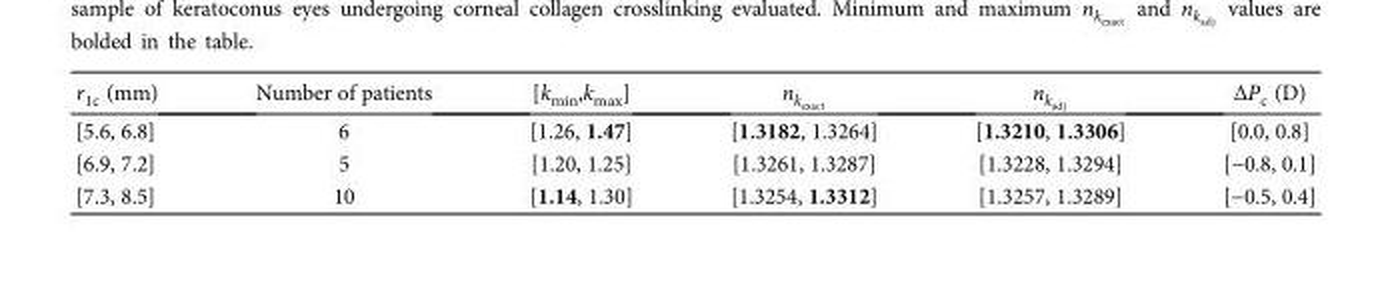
<table><thead><tr><td>r<sub>1c</sub> (mm)</td><td>Number of patients</td><td>[k<sub>min</sub>,k<sub>max</sub>]</td><td>nkexact</td><td>nkadj</td><td>ΔP<sub>c</sub> (D)</td></tr></thead><tbody><tr><td>[5.6, 6.8]</td><td>6</td><td>[1.26, 1.47]</td><td>[1.3182, 1.3264]</td><td>[1.3210, 1.3306]</td><td>[0.0, 0.8]</td></tr><tr><td>[6.9, 7.2]</td><td>5</td><td>[1.20, 1.25]</td><td>[1.3261, 1.3287]</td><td>[1.3228, 1.3294]</td><td>[−0.8, 0.1]</td></tr><tr><td>[7.3, 8.5]</td><td>10</td><td>[1.14, 1.30]</td><td>[1.3254, 1.3312]</td><td>[1.3257, 1.3289]</td><td>[−0.5, 0.4]</td></tr></tbody></table>